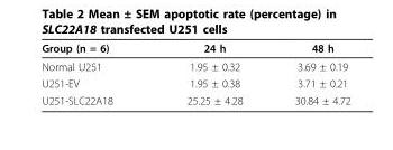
<table><thead><tr><td>Group (n = 6)</td><td>24 h</td><td>48 h</td></tr></thead><tbody><tr><td>Normal U251</td><td>1.95 ± 0.32</td><td>3.69 ± 0.19</td></tr><tr><td>U251-EV</td><td>1.95 ± 0.38</td><td>3.71 ± 0.21</td></tr><tr><td>U251-SLC22A18</td><td>25.25 ± 4.28</td><td>30.84 ± 4.72</td></tr></tbody></table>